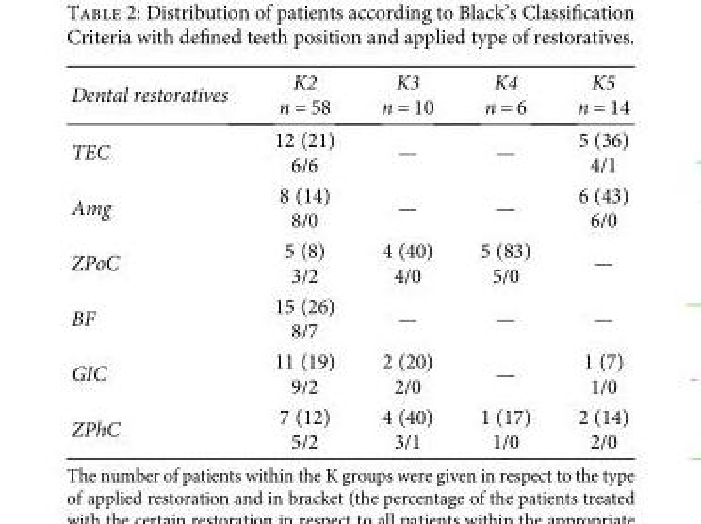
<table><thead><tr><td>Dental restoratives</td><td>K2 n = 58</td><td>K3 n = 10</td><td>K4 n = 6</td><td>K5 n = 14</td></tr></thead><tbody><tr><td>TEC</td><td>12 (21) 6/6</td><td>—</td><td>—</td><td>5 (36) 4/1</td></tr><tr><td>Amg</td><td>8 (14) 8/0</td><td>—</td><td>—</td><td>6 (43) 6/0</td></tr><tr><td>ZPoC</td><td>5 (8) 3/2</td><td>4 (40) 4/0</td><td>5 (83) 5/0</td><td>—</td></tr><tr><td>BF</td><td>15 (26) 8/7</td><td>—</td><td>—</td><td>—</td></tr><tr><td>GIC</td><td>11 (19) 9/2</td><td>2 (20) 2/0</td><td>—</td><td>1 (7) 1/0</td></tr><tr><td>ZPhC</td><td>7 (12) 5/2</td><td>4 (40) 3/1</td><td>1 (17) 1/0</td><td>2 (14) 2/0</td></tr></tbody></table>